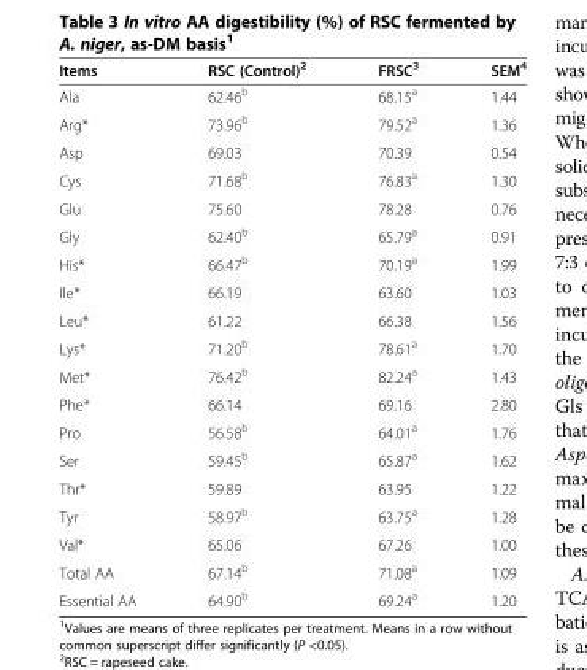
<table><thead><tr><td>Items</td><td>RSC (Control)<sup>2</sup></td><td>FRSC<sup>3</sup></td><td>SEM<sup>4</sup></td></tr></thead><tbody><tr><td>Ala</td><td>62.46<sup>b</sup></td><td>68.15<sup>a</sup></td><td>1.44</td></tr><tr><td>Arg*</td><td>73.96<sup>b</sup></td><td>79.52<sup>a</sup></td><td>1.36</td></tr><tr><td>Asp</td><td>69.03</td><td>70.39</td><td>0.54</td></tr><tr><td>Cys</td><td>71.68<sup>b</sup></td><td>76.83<sup>a</sup></td><td>1.30</td></tr><tr><td>Glu</td><td>75.60</td><td>78.28</td><td>0.76</td></tr><tr><td>Gly</td><td>62.40<sup>b</sup></td><td>65.79<sup>a</sup></td><td>0.91</td></tr><tr><td>His*</td><td>66.47<sup>b</sup></td><td>70.19<sup>a</sup></td><td>1.99</td></tr><tr><td>Ile*</td><td>66.19</td><td>63.60</td><td>1.03</td></tr><tr><td>Leu*</td><td>61.22</td><td>66.38</td><td>1.56</td></tr><tr><td>Lys*</td><td>71.20<sup>b</sup></td><td>78.61<sup>a</sup></td><td>1.70</td></tr><tr><td>Met*</td><td>76.42<sup>b</sup></td><td>82.24<sup>a</sup></td><td>1.43</td></tr><tr><td>Phe*</td><td>66.14</td><td>69.16</td><td>2.80</td></tr><tr><td>Pro</td><td>56.58<sup>b</sup></td><td>64.01<sup>a</sup></td><td>1.76</td></tr><tr><td>Ser</td><td>59.45<sup>b</sup></td><td>65.87<sup>a</sup></td><td>1.62</td></tr><tr><td>Thr*</td><td>59.89</td><td>63.95</td><td>1.22</td></tr><tr><td>Tyr</td><td>58.97<sup>b</sup></td><td>63.75<sup>a</sup></td><td>1.28</td></tr><tr><td>Val*</td><td>65.06</td><td>67.26</td><td>1.00</td></tr><tr><td>Total AA</td><td>67.14<sup>b</sup></td><td>71.08<sup>a</sup></td><td>1.09</td></tr><tr><td>Essential AA</td><td>64.90<sup>b</sup></td><td>69.24<sup>a</sup></td><td>1.20</td></tr></tbody></table>